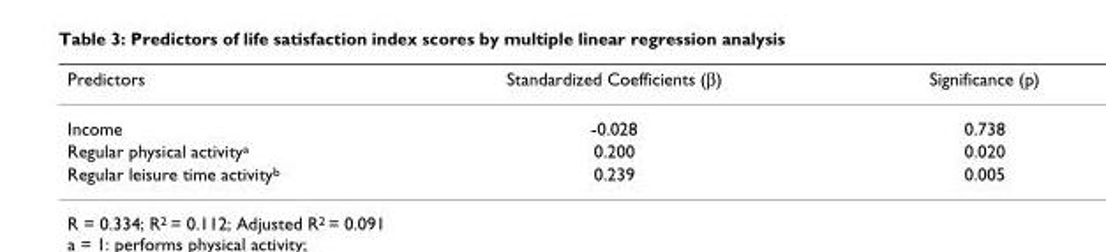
<table><thead><tr><td>Predictors</td><td>Standardized Coefficients (β)</td><td>Significance (p)</td></tr></thead><tbody><tr><td>Income</td><td>-0.028</td><td>0.738</td></tr><tr><td>Regular physical activity<sup>a</sup></td><td>0.200</td><td>0.020</td></tr><tr><td>Regular leisure time activity<sup>b</sup></td><td>0.239</td><td>0.005</td></tr></tbody></table>